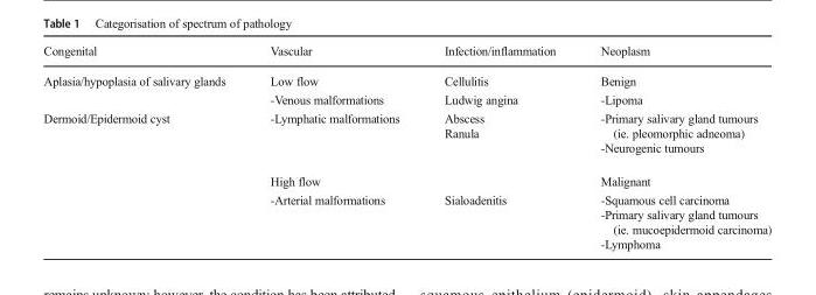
<table><thead><tr><td>Congenital</td><td>Vascular</td><td>Infection/inflammation</td><td>Neoplasm</td></tr></thead><tbody><tr><td rowspan="2">Aplasia/hypoplasia of salivary glands</td><td>Low flow</td><td>Cellulitis</td><td>Benign</td></tr><tr><td>-Venous malformations</td><td>Ludwig angina</td><td>-Lipoma</td></tr><tr><td rowspan="3">Dermoid/Epidermoid cyst</td><td>-Lymphatic malformations</td><td>Abscess Ranula</td><td>-Primary salivary gland tumours (ie. pleomorphic adneoma) -Neurogenic tumours</td></tr><tr><td>High flow</td><td></td><td>Malignant</td></tr><tr><td>-Arterial malformations</td><td>Sialoadenitis</td><td>-Squamous cell carcinoma -Primary salivary gland tumours (ie. mucoepidermoid carcinoma) -Lymphoma</td></tr></tbody></table>